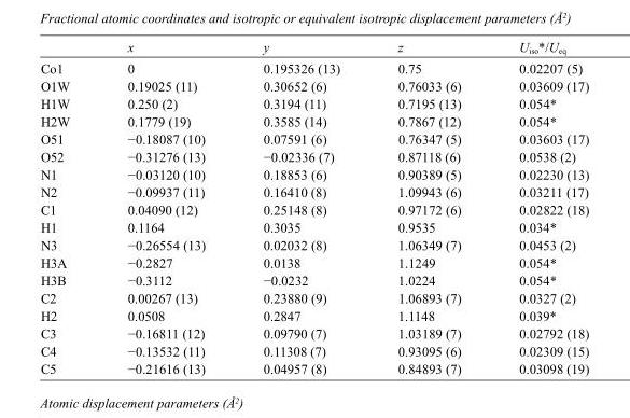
<table><thead><tr><td></td><td>x</td><td>y</td><td>z</td><td>U<sub>iso</sub>*/U<sub>eq</sub></td></tr></thead><tbody><tr><td>Co1</td><td>0</td><td>0.195326 (13)</td><td>0.75</td><td>0.02207 (5)</td></tr><tr><td>O1W</td><td>0.19025 (11)</td><td>0.30652 (6)</td><td>0.76033 (6)</td><td>0.03609 (17)</td></tr><tr><td>H1W</td><td>0.250 (2)</td><td>0.3194 (11)</td><td>0.7195 (13)</td><td>0.054*</td></tr><tr><td>H2W</td><td>0.1779 (19)</td><td>0.3585 (14)</td><td>0.7867 (12)</td><td>0.054*</td></tr><tr><td>O51</td><td>−0.18087 (10)</td><td>0.07591 (6)</td><td>0.76347 (5)</td><td>0.03603 (17)</td></tr><tr><td>O52</td><td>−0.31276 (13)</td><td>−0.02336 (7)</td><td>0.87118 (6)</td><td>0.0538 (2)</td></tr><tr><td>N1</td><td>−0.03120 (10)</td><td>0.18853 (6)</td><td>0.90389 (5)</td><td>0.02230 (13)</td></tr><tr><td>N2</td><td>−0.09937 (11)</td><td>0.16410 (8)</td><td>1.09943 (6)</td><td>0.03211 (17)</td></tr><tr><td>C1</td><td>0.04090 (12)</td><td>0.25148 (8)</td><td>0.97172 (6)</td><td>0.02822 (18)</td></tr><tr><td>H1</td><td>0.1164</td><td>0.3035</td><td>0.9535</td><td>0.034*</td></tr><tr><td>N3</td><td>−0.26554 (13)</td><td>0.02032 (8)</td><td>1.06349 (7)</td><td>0.0453 (2)</td></tr><tr><td>H3A</td><td>−0.2827</td><td>0.0138</td><td>1.1249</td><td>0.054*</td></tr><tr><td>H3B</td><td>−0.3112</td><td>−0.0232</td><td>1.0224</td><td>0.054*</td></tr><tr><td>C2</td><td>0.00267 (13)</td><td>0.23880 (9)</td><td>1.06893 (7)</td><td>0.0327 (2)</td></tr><tr><td>H2</td><td>0.0508</td><td>0.2847</td><td>1.1148</td><td>0.039*</td></tr><tr><td>C3</td><td>−0.16811 (12)</td><td>0.09790 (7)</td><td>1.03189 (7)</td><td>0.02792 (18)</td></tr><tr><td>C4</td><td>−0.13532 (11)</td><td>0.11308 (7)</td><td>0.93095 (6)</td><td>0.02309 (15)</td></tr><tr><td>C5</td><td>−0.21616 (13)</td><td>0.04957 (8)</td><td>0.84893 (7)</td><td>0.03098 (19)</td></tr></tbody></table>